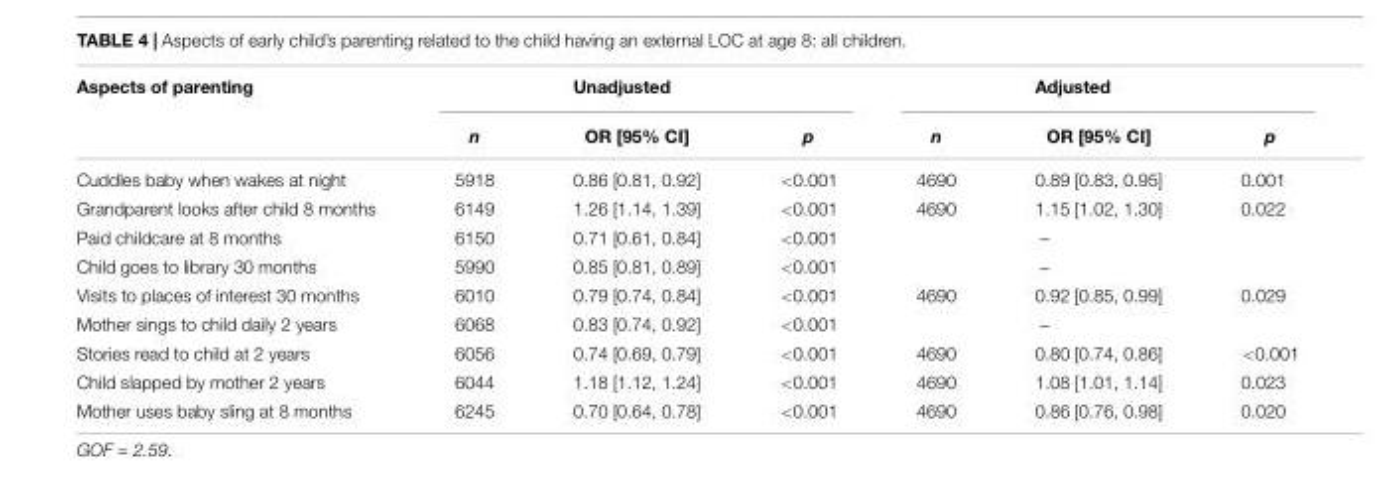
<table><thead><tr><td rowspan="2">Aspects of parenting</td><td colspan="3">Unadjusted</td><td colspan="3">Adjusted</td></tr><tr><td>n</td><td>OR [95% CI]</td><td>p</td><td>n</td><td>OR [95% CI]</td><td>p</td></tr></thead><tbody><tr><td>Cuddles baby when wakes at night</td><td>5918</td><td>0.86 [0.81, 0.92]</td><td>&lt;0.001</td><td>4690</td><td>0.89 [0.83, 0.95]</td><td>0.001</td></tr><tr><td>Grandparent looks after child 8 months</td><td>6149</td><td>1.26 [1.14, 1.39]</td><td>&lt;0.001</td><td>4690</td><td>1.15 [1.02, 1.30]</td><td>0.022</td></tr><tr><td>Paid childcare at 8 months</td><td>6150</td><td>0.71 [0.61, 0.84]</td><td>&lt;0.001</td><td></td><td>–</td><td></td></tr><tr><td>Child goes to library 30 months</td><td>5990</td><td>0.85 [0.81, 0.89]</td><td>&lt;0.001</td><td></td><td>–</td><td></td></tr><tr><td>Visits to places of interest 30 months</td><td>6010</td><td>0.79 [0.74, 0.84]</td><td>&lt;0.001</td><td>4690</td><td>0.92 [0.85, 0.99]</td><td>0.029</td></tr><tr><td>Mother sings to child daily 2 years</td><td>6068</td><td>0.83 [0.74, 0.92]</td><td>&lt;0.001</td><td></td><td>–</td><td></td></tr><tr><td>Stories read to child at 2 years</td><td>6056</td><td>0.74 [0.69, 0.79]</td><td>&lt;0.001</td><td>4690</td><td>0.80 [0.74, 0.86]</td><td>&lt;0.001</td></tr><tr><td>Child slapped by mother 2 years</td><td>6044</td><td>1.18 [1.12, 1.24]</td><td>&lt;0.001</td><td>4690</td><td>1.08 [1.01, 1.14]</td><td>0.023</td></tr><tr><td>Mother uses baby sling at 8 months</td><td>6245</td><td>0.70 [0.64, 0.78]</td><td>&lt;0.001</td><td>4690</td><td>0.86 [0.76, 0.98]</td><td>0.020</td></tr></tbody></table>